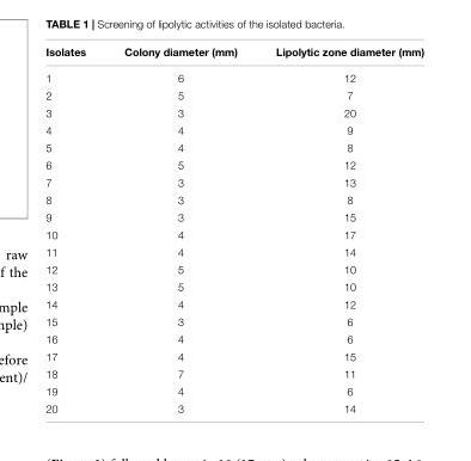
<table><thead><tr><td>Isolates</td><td>Colony diameter (mm)</td><td>Lipolytic zone diameter (mm)</td></tr></thead><tbody><tr><td>1</td><td>6</td><td>12</td></tr><tr><td>2</td><td>5</td><td>7</td></tr><tr><td>3</td><td>3</td><td>20</td></tr><tr><td>4</td><td>4</td><td>9</td></tr><tr><td>5</td><td>4</td><td>8</td></tr><tr><td>6</td><td>5</td><td>12</td></tr><tr><td>7</td><td>3</td><td>13</td></tr><tr><td>8</td><td>3</td><td>8</td></tr><tr><td>9</td><td>3</td><td>15</td></tr><tr><td>10</td><td>4</td><td>17</td></tr><tr><td>11</td><td>4</td><td>14</td></tr><tr><td>12</td><td>5</td><td>10</td></tr><tr><td>13</td><td>5</td><td>10</td></tr><tr><td>14</td><td>4</td><td>12</td></tr><tr><td>15</td><td>3</td><td>6</td></tr><tr><td>16</td><td>4</td><td>6</td></tr><tr><td>17</td><td>4</td><td>15</td></tr><tr><td>18</td><td>7</td><td>11</td></tr><tr><td>19</td><td>4</td><td>6</td></tr><tr><td>20</td><td>3</td><td>14</td></tr></tbody></table>